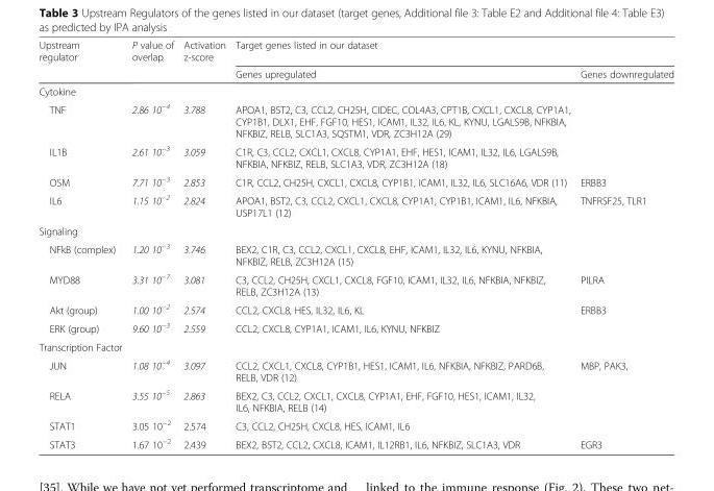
<table><thead><tr><td rowspan="2">Upstream regulator</td><td rowspan="2">P value of overlap</td><td rowspan="2">Activation z-score</td><td colspan="2">Target genes listed in our dataset</td></tr><tr><td>Genes upregulated</td><td>Genes downregulated</td></tr></thead><tbody><tr><td colspan="5">Cytokine</td></tr><tr><td>TNF</td><td>2.86 10<sup>−4</sup></td><td>3.788</td><td>APOA1, BST2, C3, CCL2, CH25H, CIDEC, COL4A3, CPT1B, CXCL1, CXCL8, CYP1A1, CYP1B1, DLX1, EHF, FGF10, HES1, ICAM1, IL32, IL6, KL, KYNU, LGALS9B, NFKBIA, NFKBIZ, RELB, SLC1A3, SQSTM1, VDR, ZC3H12A (29)</td><td></td></tr><tr><td>IL1B</td><td>2.61 10<sup>−3</sup></td><td>3.059</td><td>C1R, C3, CCL2, CXCL1, CXCL8, CYP1A1, EHF, HES1, ICAM1, IL32, IL6, LGALS9B, NFKBIA, NFKBIZ, RELB, SLC1A3, VDR, ZC3H12A (18)</td><td></td></tr><tr><td>OSM</td><td>7.71 10<sup>−3</sup></td><td>2.853</td><td>C1R, CCL2, CH25H, CXCL1, CXCL8, CYP1B1, ICAM1, IL32, IL6, SLC16A6, VDR (11)</td><td>ERBB3</td></tr><tr><td>IL6</td><td>1.15 10<sup>−2</sup></td><td>2.824</td><td>APOA1, BST2, C3, CCL2, CXCL1, CXCL8, CYP1A1, CYP1B1, ICAM1, IL6, NFKBIA, USP17L1 (12)</td><td>TNFRSF25, TLR1</td></tr><tr><td colspan="5">Signaling</td></tr><tr><td>NFkB (complex)</td><td>1.20 10<sup>−3</sup></td><td>3.746</td><td>BEX2, C1R, C3, CCL2, CXCL1, CXCL8, EHF, ICAM1, IL32, IL6, KYNU, NFKBIA, NFKBIZ, RELB, ZC3H12A (15)</td><td></td></tr><tr><td>MYD88</td><td>3.31 10<sup>−7</sup></td><td>3.081</td><td>C3, CCL2, CH25H, CXCL1, CXCL8, FGF10, ICAM1, IL32, IL6, NFKBIA, NFKBIZ, RELB, ZC3H12A (13)</td><td>PILRA</td></tr><tr><td>Akt (group)</td><td>1.00 10<sup>−2</sup></td><td>2.574</td><td>CCL2, CXCL8, HES, IL32, IL6, KL</td><td>ERBB3</td></tr><tr><td>ERK (group)</td><td>9.60 10<sup>−3</sup></td><td>2.559</td><td>CCL2, CXCL8, CYP1A1, ICAM1, IL6, KYNU, NFKBIZ</td><td></td></tr><tr><td colspan="5">Transcription Factor</td></tr><tr><td>JUN</td><td>1.08 10<sup>−4</sup></td><td>3.097</td><td>CCL2, CXCL1, CXCL8, CYP1B1, HES1, ICAM1, IL6, NFKBIA, NFKBIZ, PARD6B, RELB, VDR (12)</td><td>MBP, PAK3,</td></tr><tr><td>RELA</td><td>3.55 10<sup>−5</sup></td><td>2.863</td><td>BEX2, C3, CCL2, CXCL1, CXCL8, CYP1A1, EHF, FGF10, HES1, ICAM1, IL32, IL6, NFKBIA, RELB (14)</td><td></td></tr><tr><td>STAT1</td><td>3.05 10<sup>−2</sup></td><td>2.574</td><td>C3, CCL2, CH25H, CXCL8, HES, ICAM1, IL6</td><td></td></tr><tr><td>STAT3</td><td>1.67 10<sup>−2</sup></td><td>2.439</td><td>BEX2, BST2, CCL2, CXCL8, ICAM1, IL12RB1, IL6, NFKBIZ, SLC1A3, VDR</td><td>EGR3</td></tr></tbody></table>